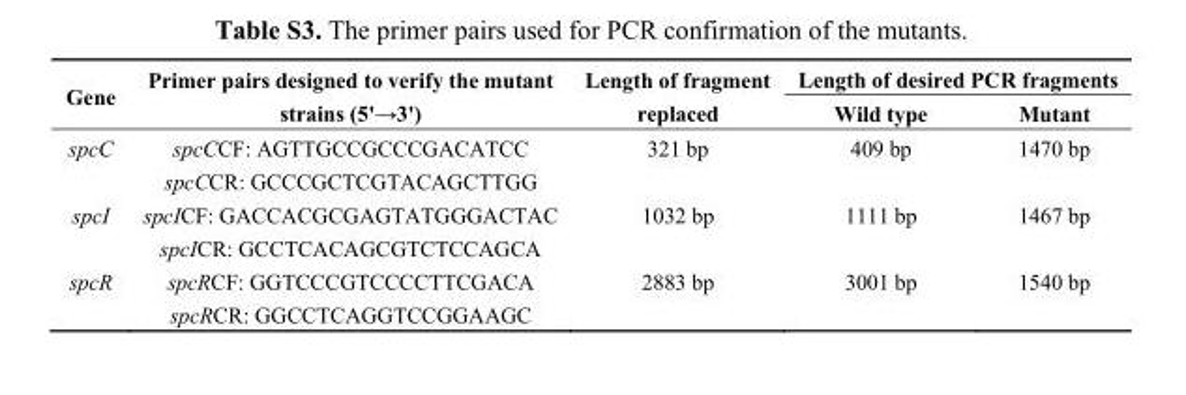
<table><thead><tr><td rowspan="2">Gene</td><td rowspan="2">Primer pairs designed to verify the mutant strains (5&#x27;→3&#x27;)</td><td rowspan="2">Length of fragment replaced</td><td colspan="2">Length of desired PCR fragments</td></tr><tr><td>Wild type</td><td>Mutant</td></tr></thead><tbody><tr><td rowspan="2">spcC</td><td>spcCCF: AGTTGCCGCCCGACATCC</td><td rowspan="2">321 bp</td><td rowspan="2">409 bp</td><td rowspan="2">1470 bp</td></tr><tr><td>spcCCR: GCCCGCTCGTACAGCTTGG</td></tr><tr><td rowspan="2">spcI</td><td>spcICF: GACCACGCGAGTATGGGACTAC</td><td rowspan="2">1032 bp</td><td rowspan="2">1111 bp</td><td rowspan="2">1467 bp</td></tr><tr><td>spcICR: GCCTCACAGCGTCTCCAGCA</td></tr><tr><td rowspan="2">spcR</td><td>spcRCF: GGTCCCGTCCCCTTCGACA</td><td rowspan="2">2883 bp</td><td rowspan="2">3001 bp</td><td rowspan="2">1540 bp</td></tr><tr><td>spcRCR: GGCCTCAGGTCCGGAAGC</td></tr></tbody></table>